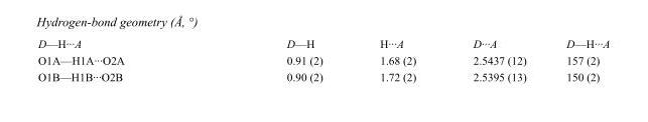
<table><tbody><tr><td>D—H···A</td><td>D—H</td><td>H···A</td><td>D···A</td><td>D—H···A</td></tr><tr><td>O1A—H1A···O2A</td><td>0.91 (2)</td><td>1.68 (2)</td><td>2.5437 (12)</td><td>157 (2)</td></tr><tr><td>O1B—H1B···O2B</td><td>0.90 (2)</td><td>1.72 (2)</td><td>2.5395 (13)</td><td>150 (2)</td></tr></tbody></table>